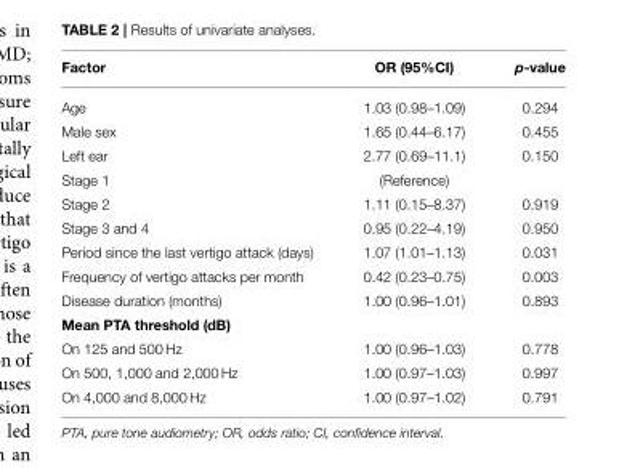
<table><thead><tr><td>Factor</td><td>OR (95%CI)</td><td>p-value</td></tr></thead><tbody><tr><td>Age</td><td>1.03 (0.98–1.09)</td><td>0.294</td></tr><tr><td>Male sex</td><td>1.65 (0.44–6.17)</td><td>0.455</td></tr><tr><td>Left ear</td><td>2.77 (0.69–11.1)</td><td>0.150</td></tr><tr><td>Stage 1</td><td>(Reference)</td><td></td></tr><tr><td>Stage 2</td><td>1.11 (0.15–8.37)</td><td>0.919</td></tr><tr><td>Stage 3 and 4</td><td>0.95 (0.22–4.19)</td><td>0.950</td></tr><tr><td>Period since the last vertigo attack (days)</td><td>1.07 (1.01–1.13)</td><td>0.031</td></tr><tr><td>Frequency of vertigo attacks per month</td><td>0.42 (0.23–0.75)</td><td>0.003</td></tr><tr><td>Disease duration (months)</td><td>1.00 (0.96–1.01)</td><td>0.893</td></tr><tr><td colspan="3">Mean PTA threshold (dB)</td></tr><tr><td>On 125 and 500 Hz</td><td>1.00 (0.96–1.03)</td><td>0.778</td></tr><tr><td>On 500, 1,000 and 2,000 Hz</td><td>1.00 (0.97–1.03)</td><td>0.997</td></tr><tr><td>On 4,000 and 8,000 Hz</td><td>1.00 (0.97–1.02)</td><td>0.791</td></tr></tbody></table>